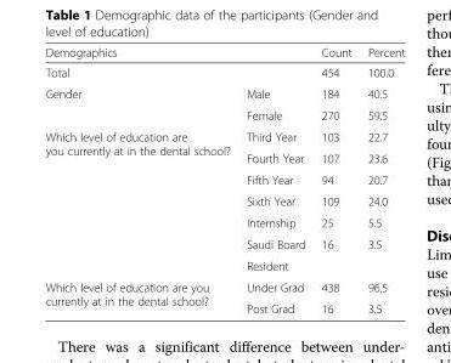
<table><thead><tr><td>Demographics</td><td></td><td>Count</td><td>Percent</td></tr></thead><tbody><tr><td>Total</td><td></td><td>454</td><td>100.0</td></tr><tr><td rowspan="2">Gender</td><td>Male</td><td>184</td><td>40.5</td></tr><tr><td>Female</td><td>270</td><td>59.5</td></tr><tr><td rowspan="7">Which level of education are you currently at in the dental school?</td><td>Third Year</td><td>103</td><td>22.7</td></tr><tr><td>Fourth Year</td><td>107</td><td>23.6</td></tr><tr><td>Fifth Year</td><td>94</td><td>20.7</td></tr><tr><td>Sixth Year</td><td>109</td><td>24.0</td></tr><tr><td>Internship</td><td>25</td><td>5.5</td></tr><tr><td>Saudi Board</td><td rowspan="2">16</td><td rowspan="2">3.5</td></tr><tr><td>Resident</td></tr><tr><td rowspan="2">Which level of education are you currently at in the dental school?</td><td>Under Grad</td><td>438</td><td>96.5</td></tr><tr><td>Post Grad</td><td>16</td><td>3.5</td></tr></tbody></table>